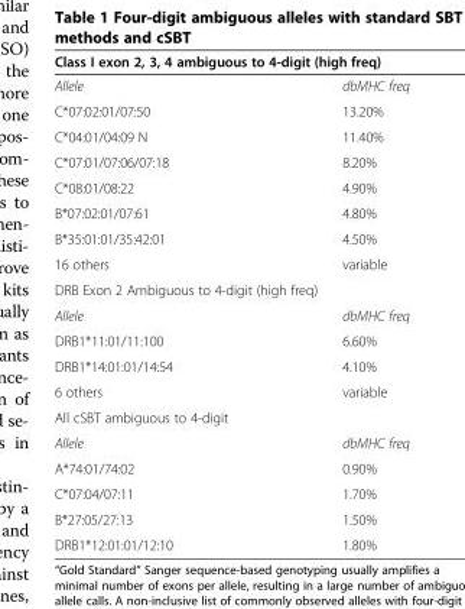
<table><thead><tr><td colspan="2">Class I exon 2, 3, 4 ambiguous to 4-digit (high freq)</td></tr><tr><td>Allele</td><td>dbMHC freq</td></tr></thead><tbody><tr><td>C*07:02:01/07:50</td><td>13.20%</td></tr><tr><td>C*04:01/04:09 N</td><td>11.40%</td></tr><tr><td>C*07:01/07:06/07:18</td><td>8.20%</td></tr><tr><td>C*08:01/08:22</td><td>4.90%</td></tr><tr><td>B*07:02:01/07:61</td><td>4.80%</td></tr><tr><td>B*35:01:01/35:42:01</td><td>4.50%</td></tr><tr><td>16 others</td><td>variable</td></tr><tr><td colspan="2">DRB Exon 2 Ambiguous to 4-digit (high freq)</td></tr><tr><td>Allele</td><td>dbMHC freq</td></tr><tr><td>DRB1*11:01/11:100</td><td>6.60%</td></tr><tr><td>DRB1*14:01:01/14:54</td><td>4.10%</td></tr><tr><td>6 others</td><td>variable</td></tr><tr><td colspan="2">All cSBT ambiguous to 4-digit</td></tr><tr><td>Allele</td><td>dbMHC freq</td></tr><tr><td>A*74:01/74:02</td><td>0.90%</td></tr><tr><td>C*07:04/07:11</td><td>1.70%</td></tr><tr><td>B*27:05/27:13</td><td>1.50%</td></tr><tr><td>DRB1*12:01:01/12:10</td><td>1.80%</td></tr></tbody></table>